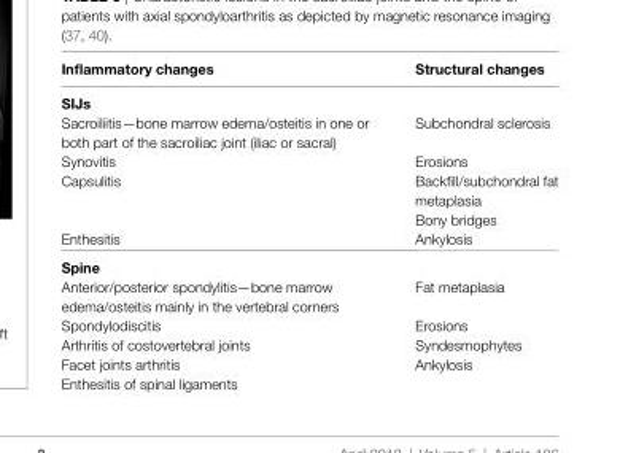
<table><thead><tr><td>inflammatory changes</td><td>Structural changes</td></tr></thead><tbody><tr><td colspan="2">SiJs</td></tr><tr><td>Sacroiliitis—bone marrow edema/osteitis in one or both part of the sacroiliac joint (iliac or sacral)</td><td>Subchondral sclerosis</td></tr><tr><td>Synovitis</td><td>Erosions</td></tr><tr><td rowspan="2">Capsulitis</td><td>Backfill/subchondral fat metaplasia</td></tr><tr><td>Bony bridges</td></tr><tr><td>Enthesitis</td><td>Ankylosis</td></tr><tr><td colspan="2">Spine</td></tr><tr><td>Anterior/posterior spondylitis—bone marrow edema/osteitis mainly in the vertebral corners</td><td>Fat metaplasia</td></tr><tr><td>Spondylodiscitis</td><td>Erosions</td></tr><tr><td>Arthritis of costovertebral joints</td><td>Syndesmophytes</td></tr><tr><td>Facet joints arthritis</td><td>Ankylosis</td></tr><tr><td>Enthesitis of spinal ligaments</td><td></td></tr></tbody></table>